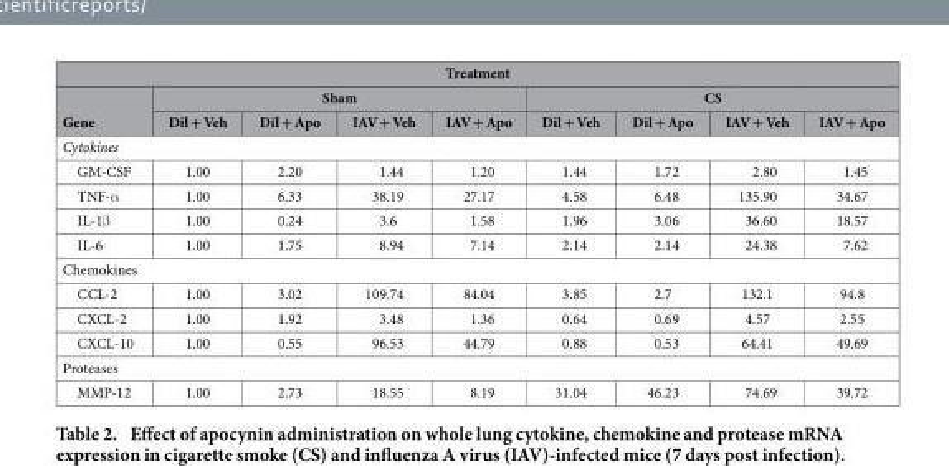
<table><thead><tr><td colspan="9">Treatment</td></tr><tr><td rowspan="2">Gene</td><td colspan="4">Sham</td><td colspan="4">CS</td></tr><tr><td>Dil + Veh</td><td>Dil + Apo</td><td>IAV + Veh</td><td>IAV + Apo</td><td>Dil + Veh</td><td>Dil + Apo</td><td>IAV + Veh</td><td>IAV + Apo</td></tr></thead><tbody><tr><td colspan="9">Cytokines</td></tr><tr><td>GM-CSF</td><td>1.00</td><td>2.20</td><td>1.44</td><td>1.20</td><td>1.44</td><td>1.72</td><td>2.80</td><td>1.45</td></tr><tr><td>TNF-α</td><td>1.00</td><td>6.33</td><td>38.19</td><td>27.17</td><td>4.58</td><td>6.48</td><td>135.90</td><td>34.67</td></tr><tr><td>IL-1β</td><td>1.00</td><td>0.24</td><td>3.6</td><td>1.58</td><td>1.96</td><td>3.06</td><td>36.60</td><td>18.57</td></tr><tr><td>IL-6</td><td>1.00</td><td>1.75</td><td>8.94</td><td>7.14</td><td>2.14</td><td>2.14</td><td>24.38</td><td>7.62</td></tr><tr><td colspan="9">Chemokines</td></tr><tr><td>CCL-2</td><td>1.00</td><td>3.02</td><td>109.74</td><td>84.04</td><td>3.85</td><td>2.7</td><td>132.1</td><td>94.8</td></tr><tr><td>CXCL-2</td><td>1.00</td><td>1.92</td><td>3.48</td><td>1.36</td><td>0.64</td><td>0.69</td><td>4.57</td><td>2.55</td></tr><tr><td>CXCL-10</td><td>1.00</td><td>0.55</td><td>96.53</td><td>44.79</td><td>0.88</td><td>0.53</td><td>64.41</td><td>49.69</td></tr><tr><td colspan="9">Proteases</td></tr><tr><td>MMP-12</td><td>1.00</td><td>2.73</td><td>18.55</td><td>8.19</td><td>31.04</td><td>46.23</td><td>74.69</td><td>39.72</td></tr></tbody></table>